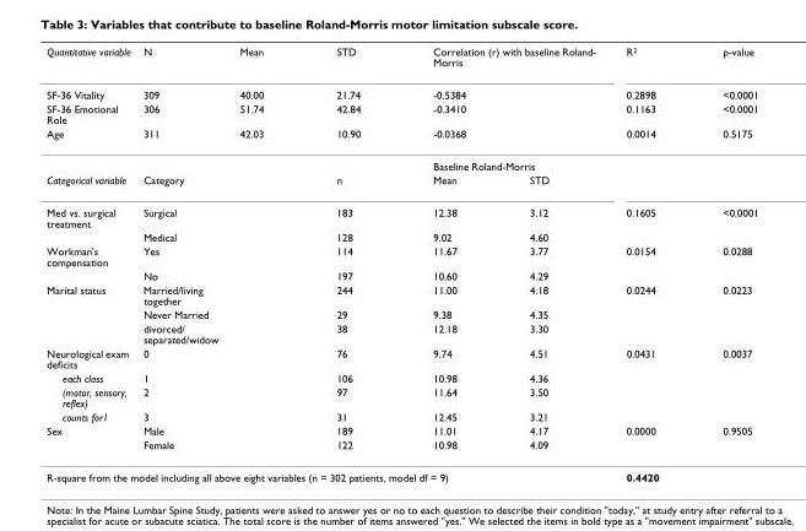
<table><thead><tr><td rowspan="6">Quantitative variable SF-36 Vitality SF-36 Emotional Role Age Categorical variable</td><td rowspan="6">N 309 306 311 Category</td><td rowspan="6">Mean 40.00 51.74 42.03</td><td rowspan="6">STD 21.74 42.84 10.90 n</td><td rowspan="5" colspan="2">Correlation (r) with baseline Roland- Morris -0.5384 -0.3410 -0.0368 Baseline Roland-Morris</td><td rowspan="6">R<sup>2</sup> 0.2898 0.1163 0.0014</td><td rowspan="6">p-value &lt;0.0001 &lt;0.0001 0.5175</td></tr><tr></tr><tr></tr><tr></tr><tr></tr><tr><td>Mean</td><td>STD</td></tr></thead><tbody><tr><td rowspan="2">Med vs. surgical treatment</td><td>Surgical</td><td></td><td>183</td><td>12.38</td><td>3.12</td><td>0.1605</td><td>&lt;0.0001</td></tr><tr><td>Medical</td><td></td><td>128</td><td>9.02</td><td>4.60</td><td></td><td></td></tr><tr><td rowspan="2">Workman&#x27;s compensation</td><td>Yes</td><td></td><td>114</td><td>11.67</td><td>3.77</td><td>0.0154</td><td>0.0288</td></tr><tr><td>No</td><td></td><td>197</td><td>10.60</td><td>4.29</td><td></td><td></td></tr><tr><td rowspan="3">Marital status</td><td>Married/living together</td><td></td><td>244</td><td>11.00</td><td>4.18</td><td>0.0244</td><td>0.0223</td></tr><tr><td>Never Married</td><td></td><td>29</td><td>9.38</td><td>4.35</td><td></td><td></td></tr><tr><td>divorced/ separated/widow</td><td></td><td>38</td><td>12.18</td><td>3.30</td><td></td><td></td></tr><tr><td>Neurological exam deficits</td><td>0</td><td></td><td>76</td><td>9.74</td><td>4.51</td><td>0.0431</td><td>0.0037</td></tr><tr><td>each class</td><td>1</td><td></td><td>106</td><td>10.98</td><td>4.36</td><td></td><td></td></tr><tr><td>(motor, sensory, reflex)</td><td>2</td><td></td><td>97</td><td>11.64</td><td>3.50</td><td></td><td></td></tr><tr><td>counts for1</td><td>3</td><td></td><td>31</td><td>12.45</td><td>3.21</td><td></td><td></td></tr><tr><td rowspan="2">Sex</td><td>Male</td><td></td><td>189</td><td>11.01</td><td>4.17</td><td>0.0000</td><td>0.9505</td></tr><tr><td>Female</td><td></td><td>122</td><td>10.98</td><td>4.09</td><td></td><td></td></tr><tr><td colspan="6">R-square from the model including all above eight variables (n = 302 patients, model df = 9)</td><td>0.4420</td><td></td></tr></tbody></table>